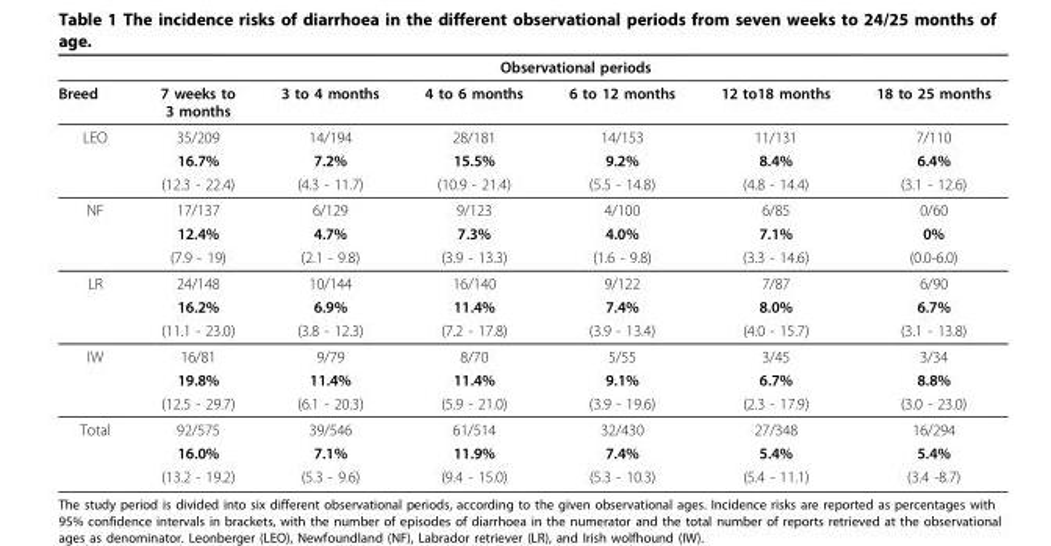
<table><thead><tr><td rowspan="2">Breed</td><td colspan="6">Observational periods</td></tr><tr><td>7 weeks to 3 months</td><td>3 to 4 months</td><td>4 to 6 months</td><td>6 to 12 months</td><td>12 to18 months</td><td>18 to 25 months</td></tr></thead><tbody><tr><td rowspan="3">LEO</td><td>35/209</td><td>14/194</td><td>28/181</td><td>14/153</td><td>11/131</td><td>7/110</td></tr><tr><td>16.7%</td><td>7.2%</td><td>15.5%</td><td>9.2%</td><td>8.4%</td><td>6.4%</td></tr><tr><td>(12.3 - 22.4)</td><td>(4.3 - 11.7)</td><td>(10.9 - 21.4)</td><td>(5.5 - 14.8)</td><td>(4.8 - 14.4)</td><td>(3.1 - 12.6)</td></tr><tr><td rowspan="3">NF</td><td>17/137</td><td>6/129</td><td>9/123</td><td>4/100</td><td>6/85</td><td>0/60</td></tr><tr><td>12.4%</td><td>4.7%</td><td>7.3%</td><td>4.0%</td><td>7.1%</td><td>0%</td></tr><tr><td>(7.9 - 19)</td><td>(2.1 - 9.8)</td><td>(3.9 - 13.3)</td><td>(1.6 - 9.8)</td><td>(3.3 - 14.6)</td><td>(0.0-6.0)</td></tr><tr><td rowspan="3">LR</td><td>24/148</td><td>10/144</td><td>16/140</td><td>9/122</td><td>7/87</td><td>6/90</td></tr><tr><td>16.2%</td><td>6.9%</td><td>11.4%</td><td>7.4%</td><td>8.0%</td><td>6.7%</td></tr><tr><td>(11.1 - 23.0)</td><td>(3.8 - 12.3)</td><td>(7.2 - 17.8)</td><td>(3.9 - 13.4)</td><td>(4.0 - 15.7)</td><td>(3.1 - 13.8)</td></tr><tr><td rowspan="3">IW</td><td>16/81</td><td>9/79</td><td>8/70</td><td>5/55</td><td>3/45</td><td>3/34</td></tr><tr><td>19.8%</td><td>11.4%</td><td>11.4%</td><td>9.1%</td><td>6.7%</td><td>8.8%</td></tr><tr><td>(12.5 - 29.7)</td><td>(6.1 - 20.3)</td><td>(5.9 - 21.0)</td><td>(3.9 - 19.6)</td><td>(2.3 - 17.9)</td><td>(3.0 - 23.0)</td></tr><tr><td rowspan="3">Total</td><td>92/575</td><td>39/546</td><td>61/514</td><td>32/430</td><td>27/348</td><td>16/294</td></tr><tr><td>16.0%</td><td>7.1%</td><td>11.9%</td><td>7.4%</td><td>5.4%</td><td>5.4%</td></tr><tr><td>(13.2 - 19.2)</td><td>(5.3 - 9.6)</td><td>(9.4 - 15.0)</td><td>(5.3 - 10.3)</td><td>(5.4 - 11.1)</td><td>(3.4 -8.7)</td></tr></tbody></table>